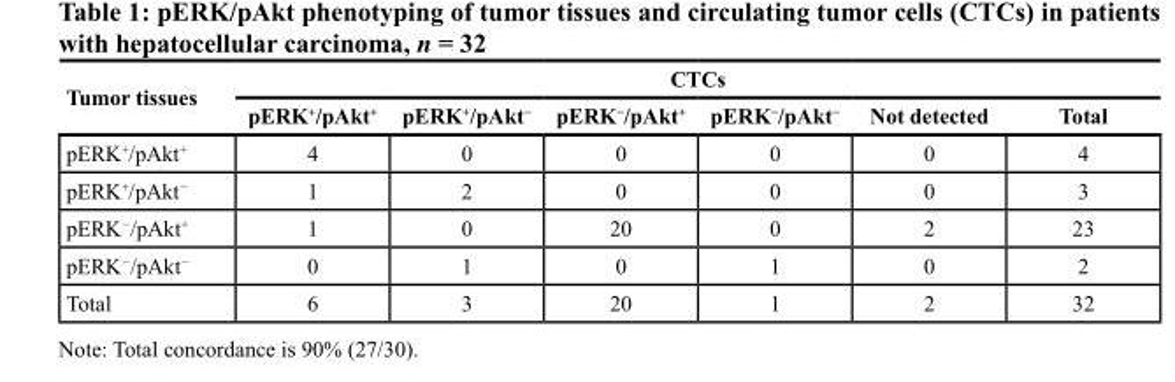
<table><thead><tr><td rowspan="2">Tumor tissues</td><td colspan="6">CTCs</td></tr><tr><td>pERK<sup>+</sup>/pAkt<sup>+</sup></td><td>pERK<sup>+</sup>/pAkt<sup>−</sup></td><td>pERK<sup>−</sup>/pAkt<sup>+</sup></td><td>pERK<sup>−</sup>/pAkt<sup>−</sup></td><td>Not detected</td><td>Total</td></tr></thead><tbody><tr><td>pERK<sup>+</sup>/pAkt<sup>+</sup></td><td>4</td><td>0</td><td>0</td><td>0</td><td>0</td><td>4</td></tr><tr><td>pERK<sup>+</sup>/pAkt<sup>−</sup></td><td>1</td><td>2</td><td>0</td><td>0</td><td>0</td><td>3</td></tr><tr><td>pERK<sup>−</sup>/pAkt<sup>+</sup></td><td>1</td><td>0</td><td>20</td><td>0</td><td>2</td><td>23</td></tr><tr><td>pERK<sup>−</sup>/pAkt<sup>−</sup></td><td>0</td><td>1</td><td>0</td><td>1</td><td>0</td><td>2</td></tr><tr><td>Total</td><td>6</td><td>3</td><td>20</td><td>1</td><td>2</td><td>32</td></tr></tbody></table>